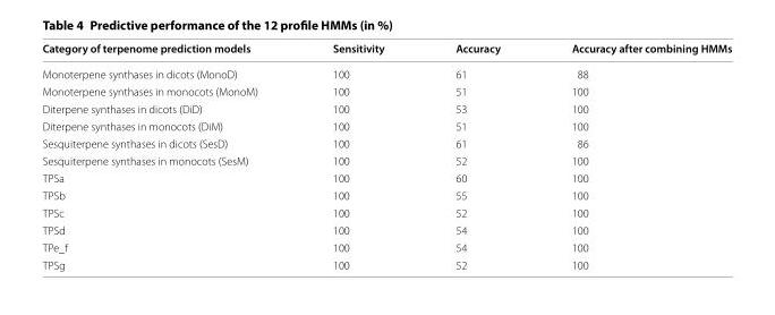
<table><thead><tr><td>Category of terpenome prediction models</td><td>Sensitivity</td><td>Accuracy</td><td>Accuracy after combining HMMs</td></tr></thead><tbody><tr><td>Monoterpene synthases in dicots (MonoD)</td><td>100</td><td>61</td><td>88</td></tr><tr><td>Monoterpene synthases in monocots (MonoM)</td><td>100</td><td>51</td><td>100</td></tr><tr><td>Diterpene synthases in dicots (DiD)</td><td>100</td><td>53</td><td>100</td></tr><tr><td>Diterpene synthases in monocots (DiM)</td><td>100</td><td>51</td><td>100</td></tr><tr><td>Sesquiterpene synthases in dicots (SesD)</td><td>100</td><td>61</td><td>86</td></tr><tr><td>Sesquiterpene synthases in monocots (SesM)</td><td>100</td><td>52</td><td>100</td></tr><tr><td>TPSa</td><td>100</td><td>60</td><td>100</td></tr><tr><td>TPSb</td><td>100</td><td>55</td><td>100</td></tr><tr><td>TPSc</td><td>100</td><td>52</td><td>100</td></tr><tr><td>TPSd</td><td>100</td><td>54</td><td>100</td></tr><tr><td>TPe_f</td><td>100</td><td>54</td><td>100</td></tr><tr><td>TPSg</td><td>100</td><td>52</td><td>100</td></tr></tbody></table>